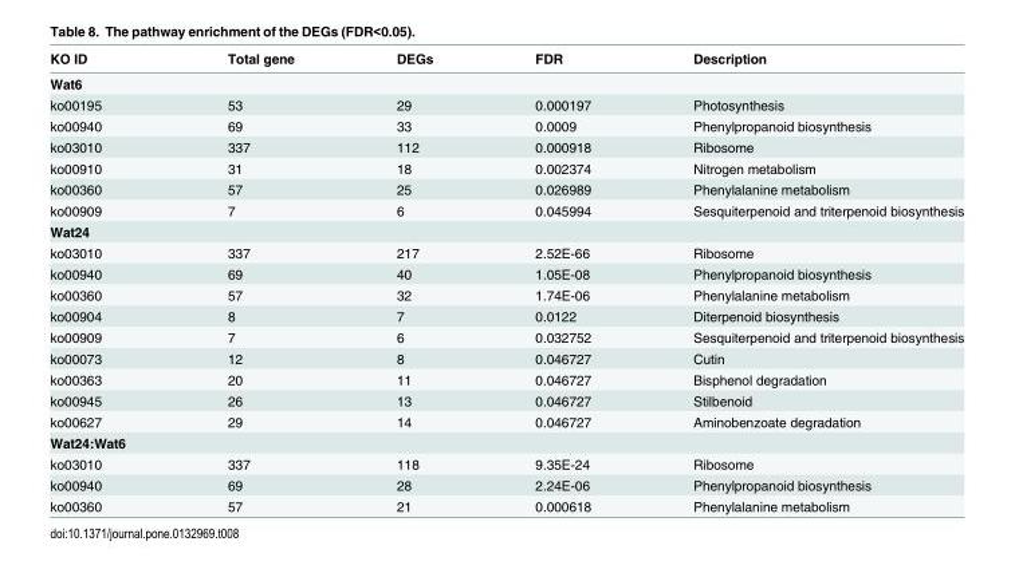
<table><thead><tr><td>KO ID</td><td>Total gene</td><td>DEGs</td><td>FDR</td><td>Description</td></tr></thead><tbody><tr><td colspan="5">Wat6</td></tr><tr><td>ko00195</td><td>53</td><td>29</td><td>0.000197</td><td>Photosynthesis</td></tr><tr><td>ko00940</td><td>69</td><td>33</td><td>0.0009</td><td>Phenylpropanoid biosynthesis</td></tr><tr><td>ko03010</td><td>337</td><td>112</td><td>0.000918</td><td>Ribosome</td></tr><tr><td>ko00910</td><td>31</td><td>18</td><td>0.002374</td><td>Nitrogen metabolism</td></tr><tr><td>ko00360</td><td>57</td><td>25</td><td>0.026989</td><td>Phenylalanine metabolism</td></tr><tr><td>ko00909</td><td>7</td><td>6</td><td>0.045994</td><td>Sesquiterpenoid and triterpenoid biosynthesis</td></tr><tr><td colspan="5">Wat24</td></tr><tr><td>ko03010</td><td>337</td><td>217</td><td>2.52E-66</td><td>Ribosome</td></tr><tr><td>ko00940</td><td>69</td><td>40</td><td>1.05E-08</td><td>Phenylpropanoid biosynthesis</td></tr><tr><td>ko00360</td><td>57</td><td>32</td><td>1.74E-06</td><td>Phenylalanine metabolism</td></tr><tr><td>ko00904</td><td>8</td><td>7</td><td>0.0122</td><td>Diterpenoid biosynthesis</td></tr><tr><td>ko00909</td><td>7</td><td>6</td><td>0.032752</td><td>Sesquiterpenoid and triterpenoid biosynthesis</td></tr><tr><td>ko00073</td><td>12</td><td>8</td><td>0.046727</td><td>Cutin</td></tr><tr><td>ko00363</td><td>20</td><td>11</td><td>0.046727</td><td>Bisphenol degradation</td></tr><tr><td>ko00945</td><td>26</td><td>13</td><td>0.046727</td><td>Stilbenoid</td></tr><tr><td>ko00627</td><td>29</td><td>14</td><td>0.046727</td><td>Aminobenzoate degradation</td></tr><tr><td colspan="5">Wat24:Wat6</td></tr><tr><td>ko03010</td><td>337</td><td>118</td><td>9.35E-24</td><td>Ribosome</td></tr><tr><td>ko00940</td><td>69</td><td>28</td><td>2.24E-06</td><td>Phenylpropanoid biosynthesis</td></tr><tr><td>ko00360</td><td>57</td><td>21</td><td>0.000618</td><td>Phenylalanine metabolism</td></tr></tbody></table>